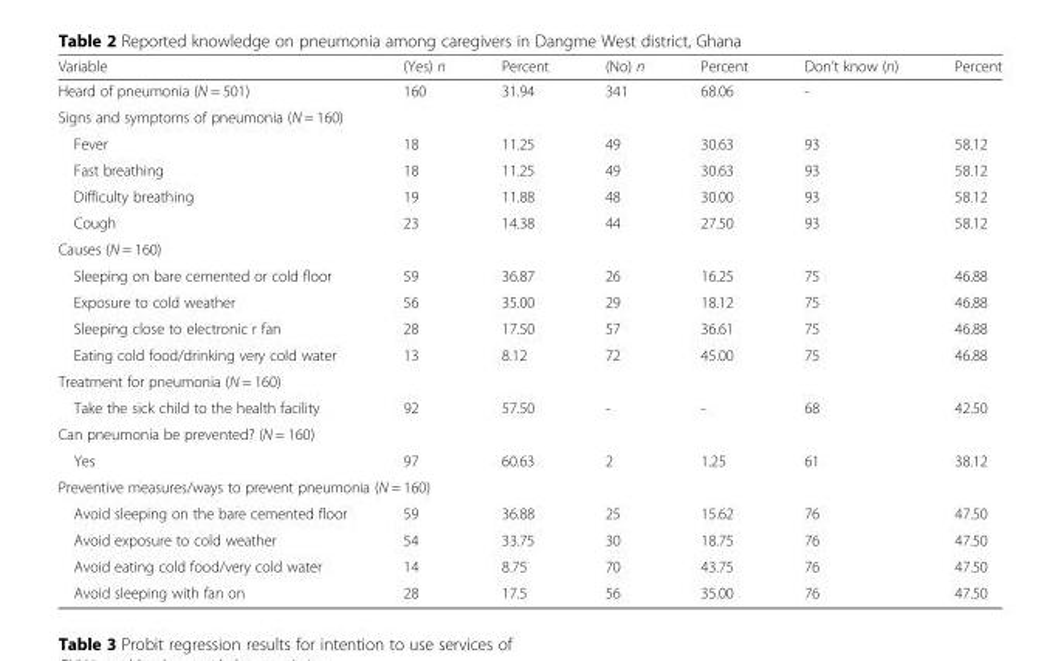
<table><thead><tr><td>Variable</td><td>(Yes) n</td><td>Percent</td><td>(No) n</td><td>Percent</td><td>Don’t know (n)</td><td>Percent</td></tr></thead><tbody><tr><td>Heard of pneumonia (N = 501)</td><td>160</td><td>31.94</td><td>341</td><td>68.06</td><td>-</td><td></td></tr><tr><td colspan="7">Signs and symptoms of pneumonia (N = 160)</td></tr><tr><td>Fever</td><td>18</td><td>11.25</td><td>49</td><td>30.63</td><td>93</td><td>58.12</td></tr><tr><td>Fast breathing</td><td>18</td><td>11.25</td><td>49</td><td>30.63</td><td>93</td><td>58.12</td></tr><tr><td>Difficulty breathing</td><td>19</td><td>11.88</td><td>48</td><td>30.00</td><td>93</td><td>58.12</td></tr><tr><td>Cough</td><td>23</td><td>14.38</td><td>44</td><td>27.50</td><td>93</td><td>58.12</td></tr><tr><td colspan="7">Causes (N = 160)</td></tr><tr><td>Sleeping on bare cemented or cold floor</td><td>59</td><td>36.87</td><td>26</td><td>16.25</td><td>75</td><td>46.88</td></tr><tr><td>Exposure to cold weather</td><td>56</td><td>35.00</td><td>29</td><td>18.12</td><td>75</td><td>46.88</td></tr><tr><td>Sleeping close to electronic r fan</td><td>28</td><td>17.50</td><td>57</td><td>36.61</td><td>75</td><td>46.88</td></tr><tr><td>Eating cold food/drinking very cold water</td><td>13</td><td>8.12</td><td>72</td><td>45.00</td><td>75</td><td>46.88</td></tr><tr><td colspan="7">Treatment for pneumonia (N = 160)</td></tr><tr><td>Take the sick child to the health facility</td><td>92</td><td>57.50</td><td>-</td><td>-</td><td>68</td><td>42.50</td></tr><tr><td colspan="7">Can pneumonia be prevented? (N = 160)</td></tr><tr><td>Yes</td><td>97</td><td>60.63</td><td>2</td><td>1.25</td><td>61</td><td>38.12</td></tr><tr><td colspan="7">Preventive measures/ways to prevent pneumonia (N = 160)</td></tr><tr><td>Avoid sleeping on the bare cemented floor</td><td>59</td><td>36.88</td><td>25</td><td>15.62</td><td>76</td><td>47.50</td></tr><tr><td>Avoid exposure to cold weather</td><td>54</td><td>33.75</td><td>30</td><td>18.75</td><td>76</td><td>47.50</td></tr><tr><td>Avoid eating cold food/very cold water</td><td>14</td><td>8.75</td><td>70</td><td>43.75</td><td>76</td><td>47.50</td></tr><tr><td>Avoid sleeping with fan on</td><td>28</td><td>17.5</td><td>56</td><td>35.00</td><td>76</td><td>47.50</td></tr></tbody></table>